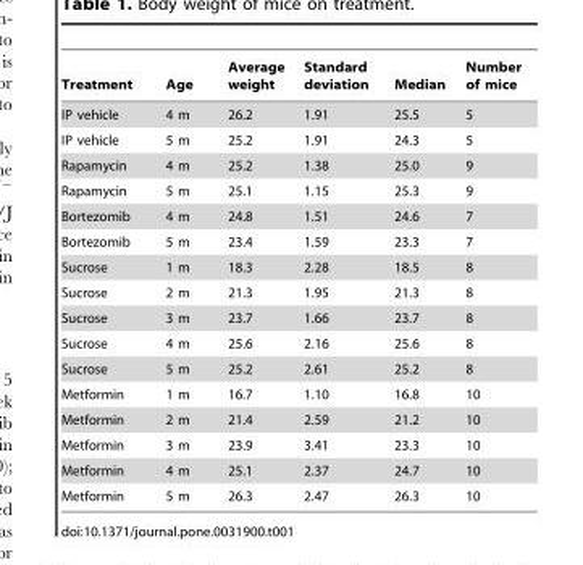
<table><thead><tr><td>Treatment</td><td>Age</td><td>Average weight</td><td>Standard deviation</td><td>Median</td><td>Number of mice</td></tr></thead><tbody><tr><td>IP vehicle</td><td>4 m</td><td>26.2</td><td>1.91</td><td>25.5</td><td>5</td></tr><tr><td>IP vehicle</td><td>5 m</td><td>25.2</td><td>1.91</td><td>24.3</td><td>5</td></tr><tr><td>Rapamycin</td><td>4 m</td><td>25.2</td><td>1.38</td><td>25.0</td><td>9</td></tr><tr><td>Rapamycin</td><td>5 m</td><td>25.1</td><td>1.15</td><td>25.3</td><td>9</td></tr><tr><td>Bortezomib</td><td>4 m</td><td>24.8</td><td>1.51</td><td>24.6</td><td>7</td></tr><tr><td>Bortezomib</td><td>5 m</td><td>23.4</td><td>1.59</td><td>23.3</td><td>7</td></tr><tr><td>Sucrose</td><td>1 m</td><td>18.3</td><td>2.28</td><td>18.5</td><td>8</td></tr><tr><td>Sucrose</td><td>2 m</td><td>21.3</td><td>1.95</td><td>21.3</td><td>8</td></tr><tr><td>Sucrose</td><td>3 m</td><td>23.7</td><td>1.66</td><td>23.7</td><td>8</td></tr><tr><td>Sucrose</td><td>4 m</td><td>25.6</td><td>2.16</td><td>25.6</td><td>8</td></tr><tr><td>Sucrose</td><td>5 m</td><td>25.2</td><td>2.61</td><td>25.2</td><td>8</td></tr><tr><td>Metformin</td><td>1 m</td><td>16.7</td><td>1.10</td><td>16.8</td><td>10</td></tr><tr><td>Metformin</td><td>2 m</td><td>21.4</td><td>2.59</td><td>21.2</td><td>10</td></tr><tr><td>Metformin</td><td>3 m</td><td>23.9</td><td>3.41</td><td>23.3</td><td>10</td></tr><tr><td>Metformin</td><td>4 m</td><td>25.1</td><td>2.37</td><td>24.7</td><td>10</td></tr><tr><td>Metformin</td><td>5 m</td><td>26.3</td><td>2.47</td><td>26.3</td><td>10</td></tr></tbody></table>